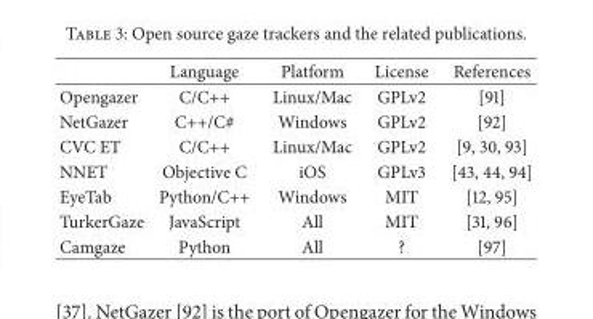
<table><thead><tr><td></td><td>Language</td><td>Platform</td><td>License</td><td>References</td></tr></thead><tbody><tr><td>Opengazer</td><td>C/C++</td><td>Linux/Mac</td><td>GPLv2</td><td>[91]</td></tr><tr><td>NetGazer</td><td>C++/C#</td><td>Windows</td><td>GPLv2</td><td>[92]</td></tr><tr><td>CVC ET</td><td>C/C++</td><td>Linux/Mac</td><td>GPLv2</td><td>[9, 30, 93]</td></tr><tr><td>NNET</td><td>Objective C</td><td>iOS</td><td>GPLv3</td><td>[43, 44, 94]</td></tr><tr><td>EyeTab</td><td>Python/C++</td><td>Windows</td><td>MIT</td><td>[12, 95]</td></tr><tr><td>TurkerGaze</td><td>JavaScript</td><td>All</td><td>MIT</td><td>[31, 96]</td></tr><tr><td>Camgaze</td><td>Python</td><td>All</td><td>?</td><td>[97]</td></tr></tbody></table>